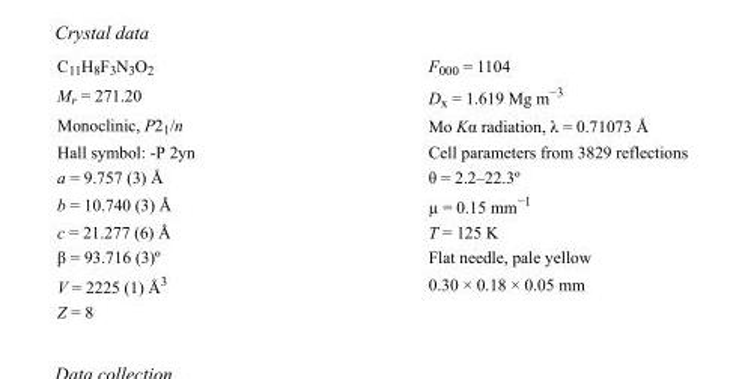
<table><tbody><tr><td>C<sub>11</sub>H<sub>8</sub>F<sub>3</sub>N<sub>3</sub>O<sub>2</sub></td><td>F000 = 1104</td></tr><tr><td>M<sub>r</sub> = 271.20</td><td>D<sub>x</sub> = 1.619 Mg m<sup>−3</sup></td></tr><tr><td>Monoclinic, P2<sub>1</sub>/n</td><td>Mo Kα radiation, λ = 0.71073 Å</td></tr><tr><td>Hall symbol: -P 2yn</td><td>Cell parameters from 3829 reflections</td></tr><tr><td>a = 9.757 (3) Å</td><td>θ = 2.2–22.3º</td></tr><tr><td>b = 10.740 (3) Å</td><td>µ = 0.15 mm<sup>−1</sup></td></tr><tr><td>c = 21.277 (6) Å</td><td>T = 125 K</td></tr><tr><td>β = 93.716 (3)º</td><td>Flat needle, pale yellow</td></tr><tr><td>V = 2225 (1) Å<sup>3</sup></td><td>0.30 × 0.18 × 0.05 mm</td></tr><tr><td>Z = 8</td><td></td></tr></tbody></table>